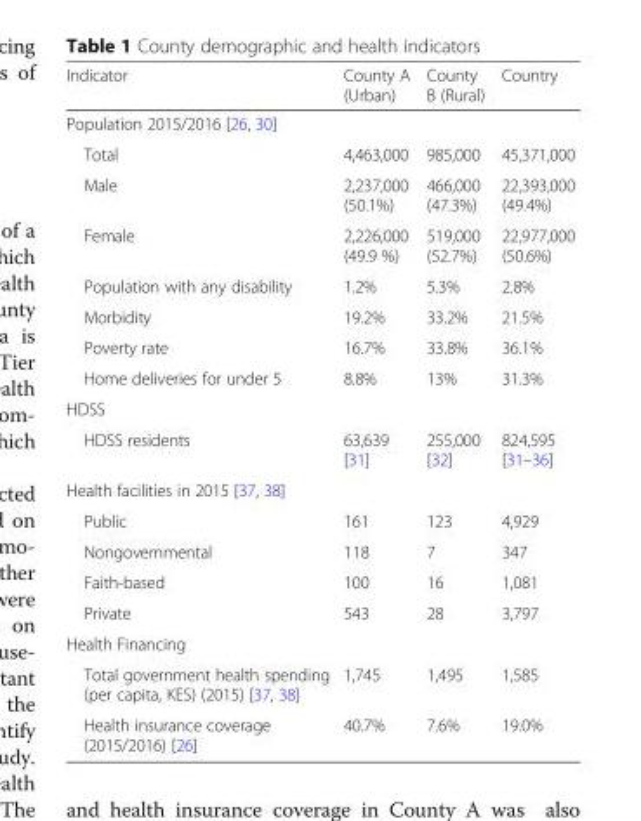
<table><thead><tr><td>Indicator</td><td>County A (Urban)</td><td>County B (Rural)</td><td>Country</td></tr></thead><tbody><tr><td colspan="4">Population 2015/2016 [26, 30]</td></tr><tr><td>Total</td><td>4,463,000</td><td>985,000</td><td>45,371,000</td></tr><tr><td>Male</td><td>2,237,000 (50.1%)</td><td>466,000 (47.3%)</td><td>22,393,000 (49.4%)</td></tr><tr><td>Female</td><td>2,226,000 (49.9 %)</td><td>519,000 (52.7%)</td><td>22,977,000 (50.6%)</td></tr><tr><td>Population with any disability</td><td>1.2%</td><td>5.3%</td><td>2.8%</td></tr><tr><td>Morbidity</td><td>19.2%</td><td>33.2%</td><td>21.5%</td></tr><tr><td>Poverty rate</td><td>16.7%</td><td>33.8%</td><td>36.1%</td></tr><tr><td>Home deliveries for under 5</td><td>8.8%</td><td>13%</td><td>31.3%</td></tr><tr><td colspan="4">HDSS</td></tr><tr><td>HDSS residents</td><td>63,639 [31]</td><td>255,000 [32]</td><td>824,595 [31–36]</td></tr><tr><td colspan="4">Health facilities in 2015 [37, 38]</td></tr><tr><td>Public</td><td>161</td><td>123</td><td>4,929</td></tr><tr><td>Nongovernmental</td><td>118</td><td>7</td><td>347</td></tr><tr><td>Faith-based</td><td>100</td><td>16</td><td>1,081</td></tr><tr><td>Private</td><td>543</td><td>28</td><td>3,797</td></tr><tr><td colspan="4">Health Financing</td></tr><tr><td>Total government health spending (per capita, KES) (2015) [37, 38]</td><td>1,745</td><td>1,495</td><td>1,585</td></tr><tr><td>Health insurance coverage (2015/2016) [26]</td><td>40.7%</td><td>7.6%</td><td>19.0%</td></tr></tbody></table>